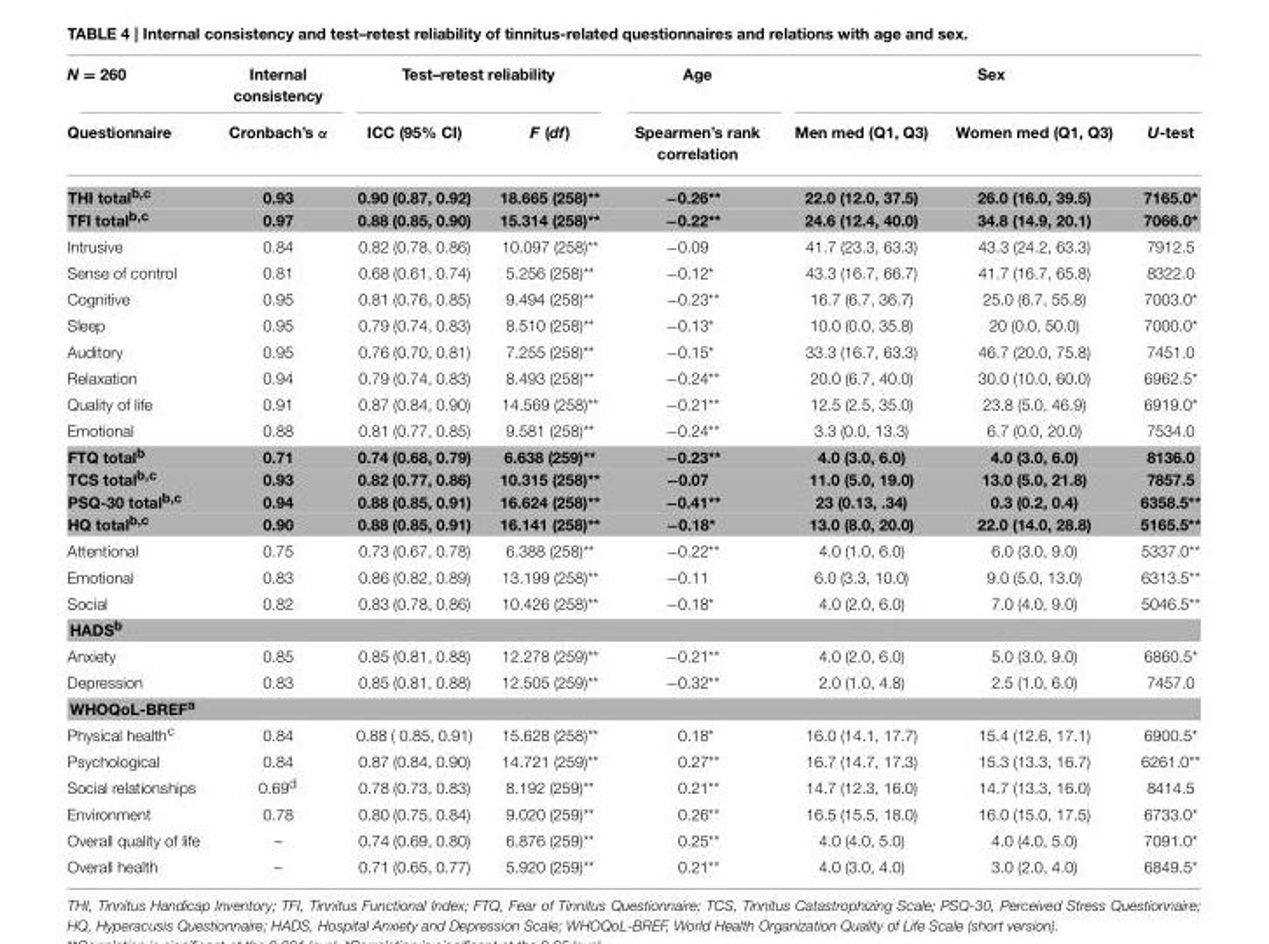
<table><thead><tr><td rowspan="2">N = 260 Questionnaire</td><td rowspan="2">Internal consistency Cronbach’s α</td><td colspan="2">Test–retest reliability</td><td rowspan="2">Age Spearmen’s rank correlation</td><td colspan="3">Sex</td></tr><tr><td>ICC (95% CI)</td><td>F (df)</td><td>Men med (Q1, Q3)</td><td>Women med (Q1, Q3)</td><td>U-test</td></tr></thead><tbody><tr><td>THI total<sup>b</sup>,<sup>c</sup></td><td>0.93</td><td>0.90 (0.87, 0.92)</td><td>18.665 (258)**</td><td>−0.26**</td><td>22.0 (12.0, 37.5)</td><td>26.0 (16.0, 39.5)</td><td>7165.0*</td></tr><tr><td>TFI total<sup>b</sup>,<sup>c</sup></td><td>0.97</td><td>0.88 (0.85, 0.90)</td><td>15.314 (258)**</td><td>−0.22**</td><td>24.6 (12.4, 40.0)</td><td>34.8 (14.9, 20.1)</td><td>7066.0*</td></tr><tr><td>Intrusive</td><td>0.84</td><td>0.82 (0.78, 0.86)</td><td>10.097 (258)**</td><td>−0.09</td><td>41.7 (23.3, 63.3)</td><td>43.3 (24.2, 63.3)</td><td>7912.5</td></tr><tr><td>Sense of control</td><td>0.81</td><td>0.68 (0.61, 0.74)</td><td>5.256 (258)**</td><td>−0.12*</td><td>43.3 (16.7, 66.7)</td><td>41.7 (16.7, 65.8)</td><td>8322.0</td></tr><tr><td>Cognitive</td><td>0.95</td><td>0.81 (0.76, 0.85)</td><td>9.494 (258)**</td><td>−0.23**</td><td>16.7 (6.7, 36.7)</td><td>25.0 (6.7, 55.8)</td><td>7003.0*</td></tr><tr><td>Sleep</td><td>0.95</td><td>0.79 (0.74, 0.83)</td><td>8.510 (258)**</td><td>−0.13*</td><td>10.0 (0.0, 35.8)</td><td>20 (0.0, 50.0)</td><td>7000.0*</td></tr><tr><td>Auditory</td><td>0.95</td><td>0.76 (0.70, 0.81)</td><td>7.255 (258)**</td><td>−0.15*</td><td>33.3 (16.7, 63.3)</td><td>46.7 (20.0, 75.8)</td><td>7451.0</td></tr><tr><td>Relaxation</td><td>0.94</td><td>0.79 (0.74, 0.83)</td><td>8.493 (258)**</td><td>−0.24**</td><td>20.0 (6.7, 40.0)</td><td>30.0 (10.0, 60.0)</td><td>6962.5*</td></tr><tr><td>Quality of life</td><td>0.91</td><td>0.87 (0.84, 0.90)</td><td>14.569 (258)**</td><td>−0.21**</td><td>12.5 (2.5, 35.0)</td><td>23.8 (5.0, 46.9)</td><td>6919.0*</td></tr><tr><td>Emotional</td><td>0.88</td><td>0.81 (0.77, 0.85)</td><td>9.581 (258)**</td><td>−0.24**</td><td>3.3 (0.0, 13.3)</td><td>6.7 (0.0, 20.0)</td><td>7534.0</td></tr><tr><td>FTQ total<sup>b</sup></td><td>0.71</td><td>0.74 (0.68, 0.79)</td><td>6.638 (259)**</td><td>−0.23**</td><td>4.0 (3.0, 6.0)</td><td>4.0 (3.0, 6.0)</td><td>8136.0</td></tr><tr><td>TCS total<sup>b</sup>,<sup>c</sup></td><td>0.93</td><td>0.82 (0.77, 0.86)</td><td>10.315 (258)**</td><td>−0.07</td><td>11.0 (5.0, 19.0)</td><td>13.0 (5.0, 21.8)</td><td>7857.5</td></tr><tr><td>PSQ-30 total<sup>b</sup>,<sup>c</sup></td><td>0.94</td><td>0.88 (0.85, 0.91)</td><td>16.624 (258)**</td><td>−0.41**</td><td>23 (0.13, .34)</td><td>0.3 (0.2, 0.4)</td><td>6358.5**</td></tr><tr><td>HQ total<sup>b</sup>,<sup>c</sup></td><td>0.90</td><td>0.88 (0.85, 0.91)</td><td>16.141 (258)**</td><td>−0.18*</td><td>13.0 (8.0, 20.0)</td><td>22.0 (14.0, 28.8)</td><td>5165.5**</td></tr><tr><td>Attentional</td><td>0.75</td><td>0.73 (0.67, 0.78)</td><td>6.388 (258)**</td><td>−0.22**</td><td>4.0 (1.0, 6.0)</td><td>6.0 (3.0, 9.0)</td><td>5337.0**</td></tr><tr><td>Emotional</td><td>0.83</td><td>0.86 (0.82, 0.89)</td><td>13.199 (258)**</td><td>−0.11</td><td>6.0 (3.3, 10.0)</td><td>9.0 (5.0, 13.0)</td><td>6313.5**</td></tr><tr><td>Social</td><td>0.82</td><td>0.83 (0.78, 0.86)</td><td>10.426 (258)**</td><td>−0.18*</td><td>4.0 (2.0, 6.0)</td><td>7.0 (4.0, 9.0)</td><td>5046.5**</td></tr><tr><td colspan="8">HADS<sup>b</sup></td></tr><tr><td>Anxiety</td><td>0.85</td><td>0.85 (0.81, 0.88)</td><td>12.278 (259)**</td><td>−0.21**</td><td>4.0 (2.0, 6.0)</td><td>5.0 (3.0, 9.0)</td><td>6860.5*</td></tr><tr><td>Depression</td><td>0.83</td><td>0.85 (0.81, 0.88)</td><td>12.505 (259)**</td><td>−0.32**</td><td>2.0 (1.0, 4.8)</td><td>2.5 (1.0, 6.0)</td><td>7457.0</td></tr><tr><td colspan="8">WHOQoL-BREF<sup>a</sup></td></tr><tr><td>Physical health<sup>c</sup></td><td>0.84</td><td>0.88 ( 0.85, 0.91)</td><td>15.628 (258)**</td><td>0.18*</td><td>16.0 (14.1, 17.7)</td><td>15.4 (12.6, 17.1)</td><td>6900.5*</td></tr><tr><td>Psychological</td><td>0.84</td><td>0.87 (0.84, 0.90)</td><td>14.721 (259)**</td><td>0.27**</td><td>16.7 (14.7, 17.3)</td><td>15.3 (13.3, 16.7)</td><td>6261.0**</td></tr><tr><td>Social relationships</td><td>0.69<sup>d</sup></td><td>0.78 (0.73, 0.83)</td><td>8.192 (259)**</td><td>0.21**</td><td>14.7 (12.3, 16.0)</td><td>14.7 (13.3, 16.0)</td><td>8414.5</td></tr><tr><td>Environment</td><td>0.78</td><td>0.80 (0.75, 0.84)</td><td>9.020 (259)**</td><td>0.26**</td><td>16.5 (15.5, 18.0)</td><td>16.0 (15.0, 17.5)</td><td>6733.0*</td></tr><tr><td>Overall quality of life</td><td>–</td><td>0.74 (0.69, 0.80)</td><td>6.876 (259)**</td><td>0.25**</td><td>4.0 (4.0, 5.0)</td><td>4.0 (4.0, 5.0)</td><td>7091.0*</td></tr><tr><td>Overall health</td><td>–</td><td>0.71 (0.65, 0.77)</td><td>5.920 (259)**</td><td>0.21**</td><td>4.0 (3.0, 4.0)</td><td>3.0 (2.0, 4.0)</td><td>6849.5*</td></tr></tbody></table>